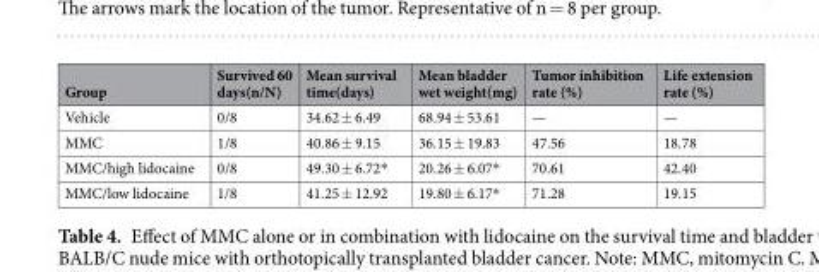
<table><thead><tr><td>Group</td><td>Survived 60 days(n/N)</td><td>Mean survival time(days)</td><td>Mean bladder wet weight(mg)</td><td>Tumor inhibition rate (%)</td><td>Life extension rate (%)</td></tr></thead><tbody><tr><td>Vehicle</td><td>0/8</td><td>34.62 ± 6.49</td><td>68.94 ± 53.61</td><td>—</td><td>—</td></tr><tr><td>MMC</td><td>1/8</td><td>40.86 ± 9.15</td><td>36.15 ± 19.83</td><td>47.56</td><td>18.78</td></tr><tr><td>MMC/high lidocaine</td><td>0/8</td><td>49.30 ± 6.72*</td><td>20.26 ± 6.07*</td><td>70.61</td><td>42.40</td></tr><tr><td>MMC/low lidocaine</td><td>1/8</td><td>41.25 ± 12.92</td><td>19.80 ± 6.17*</td><td>71.28</td><td>19.15</td></tr></tbody></table>